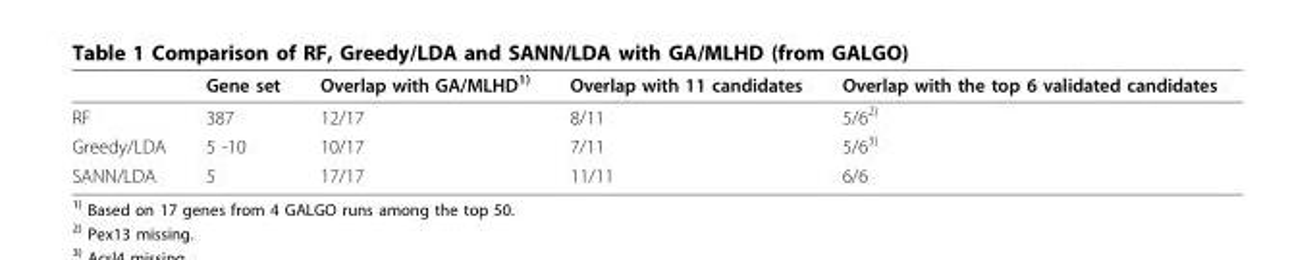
<table><thead><tr><td></td><td>Gene set</td><td>Overlap with GA/MLHD<sup>1)</sup></td><td>Overlap with 11 candidates</td><td>Overlap with the top 6 validated candidates</td></tr></thead><tbody><tr><td>RF</td><td>387</td><td>12/17</td><td>8/11</td><td>5/6<sup>2)</sup></td></tr><tr><td>Greedy/LDA</td><td>5 -10</td><td>10/17</td><td>7/11</td><td>5/6<sup>3)</sup></td></tr><tr><td>SANN/LDA</td><td>5</td><td>17/17</td><td>11/11</td><td>6/6</td></tr></tbody></table>